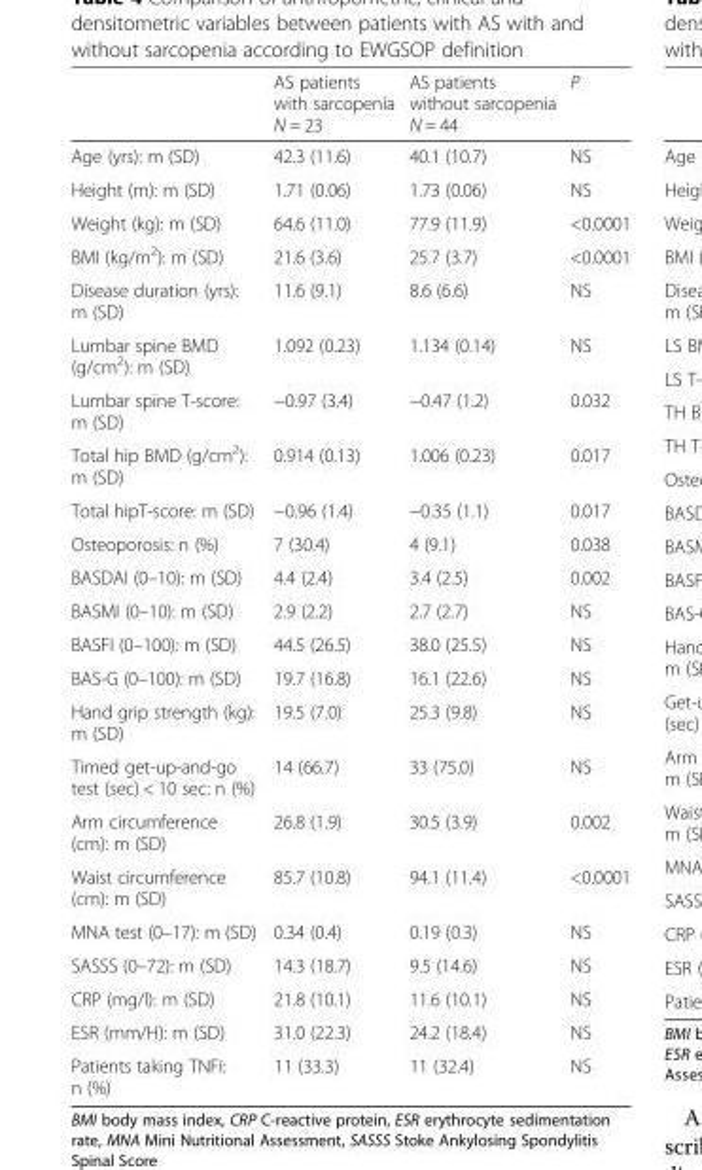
<table><thead><tr><td></td><td>AS patients with sarcopenia N = 23</td><td>AS patients without sarcopenia N = 44</td><td>P</td></tr></thead><tbody><tr><td>Age (yrs): m (SD)</td><td>42.3 (11.6)</td><td>40.1 (10.7)</td><td>NS</td></tr><tr><td>Height (m): m (SD)</td><td>1.71 (0.06)</td><td>1.73 (0.06)</td><td>NS</td></tr><tr><td>Weight (kg): m (SD)</td><td>64.6 (11.0)</td><td>77.9 (11.9)</td><td>&lt;0.0001</td></tr><tr><td>BMI (kg/m<sup>2</sup>): m (SD)</td><td>21.6 (3.6)</td><td>25.7 (3.7)</td><td>&lt;0.0001</td></tr><tr><td>Disease duration (yrs): m (SD)</td><td>11.6 (9.1)</td><td>8.6 (6.6)</td><td>NS</td></tr><tr><td>Lumbar spine BMD (g/cm<sup>2</sup>): m (SD)</td><td>1.092 (0.23)</td><td>1.134 (0.14)</td><td>NS</td></tr><tr><td>Lumbar spine T-score: m (SD)</td><td>−0.97 (3.4)</td><td>−0.47 (1.2)</td><td>0.032</td></tr><tr><td>Total hip BMD (g/cm<sup>2</sup>): m (SD)</td><td>0.914 (0.13)</td><td>1.006 (0.23)</td><td>0.017</td></tr><tr><td>Total hipT-score: m (SD)</td><td>−0.96 (1.4)</td><td>−0.35 (1.1)</td><td>0.017</td></tr><tr><td>Osteoporosis: n (%)</td><td>7 (30.4)</td><td>4 (9.1)</td><td>0.038</td></tr><tr><td>BASDAI (0–10): m (SD)</td><td>4.4 (2.4)</td><td>3.4 (2.5)</td><td>0.002</td></tr><tr><td>BASMI (0–10): m (SD)</td><td>2.9 (2.2)</td><td>2.7 (2.7)</td><td>NS</td></tr><tr><td>BASFI (0–100): m (SD)</td><td>44.5 (26.5)</td><td>38.0 (25.5)</td><td>NS</td></tr><tr><td>BAS-G (0–100): m (SD)</td><td>19.7 (16.8)</td><td>16.1 (22.6)</td><td>NS</td></tr><tr><td>Hand grip strength (kg): m (SD)</td><td>19.5 (7.0)</td><td>25.3 (9.8)</td><td>NS</td></tr><tr><td>Timed get-up-and-go test (sec) &lt; 10 sec: n (%)</td><td>14 (66.7)</td><td>33 (75.0)</td><td>NS</td></tr><tr><td>Arm circumference (cm): m (SD)</td><td>26.8 (1.9)</td><td>30.5 (3.9)</td><td>0.002</td></tr><tr><td>Waist circumference (cm): m (SD)</td><td>85.7 (10.8)</td><td>94.1 (11.4)</td><td>&lt;0.0001</td></tr><tr><td>MNA test (0–17): m (SD)</td><td>0.34 (0.4)</td><td>0.19 (0.3)</td><td>NS</td></tr><tr><td>SASSS (0–72): m (SD)</td><td>14.3 (18.7)</td><td>9.5 (14.6)</td><td>NS</td></tr><tr><td>CRP (mg/l): m (SD)</td><td>21.8 (10.1)</td><td>11.6 (10.1)</td><td>NS</td></tr><tr><td>ESR (mm/H): m (SD)</td><td>31.0 (22.3)</td><td>24.2 (18.4)</td><td>NS</td></tr><tr><td>Patients taking TNFi: n (%)</td><td>11 (33.3)</td><td>11 (32.4)</td><td>NS</td></tr></tbody></table>